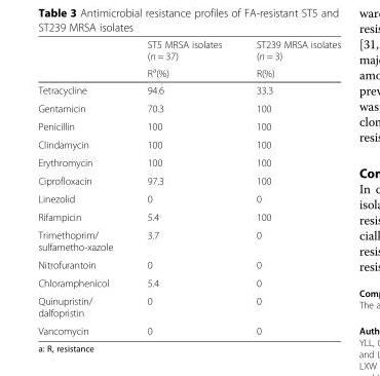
<table><thead><tr><td rowspan="2"></td><td rowspan="2">ST5 MRSA isolates (n = 37) R<sup>a</sup>(%)</td><td rowspan="2">ST239 MRSA isolates (n = 3) R(%)</td></tr><tr></tr></thead><tbody><tr><td>Tetracycline</td><td>94.6</td><td>33.3</td></tr><tr><td>Gentamicin</td><td>70.3</td><td>100</td></tr><tr><td>Penicillin</td><td>100</td><td>100</td></tr><tr><td>Clindamycin</td><td>100</td><td>100</td></tr><tr><td>Erythromycin</td><td>100</td><td>100</td></tr><tr><td>Ciprofloxacin</td><td>97.3</td><td>100</td></tr><tr><td>Linezolid</td><td>0</td><td>0</td></tr><tr><td>Rifampicin</td><td>5.4</td><td>100</td></tr><tr><td>Trimethoprim/ sulfametho-xazole</td><td>3.7</td><td>0</td></tr><tr><td>Nitrofurantoin</td><td>0</td><td>0</td></tr><tr><td>Chloramphenicol</td><td>5.4</td><td>0</td></tr><tr><td>Quinupristin/ dalfopristin</td><td>0</td><td>0</td></tr><tr><td>Vancomycin</td><td>0</td><td>0</td></tr></tbody></table>